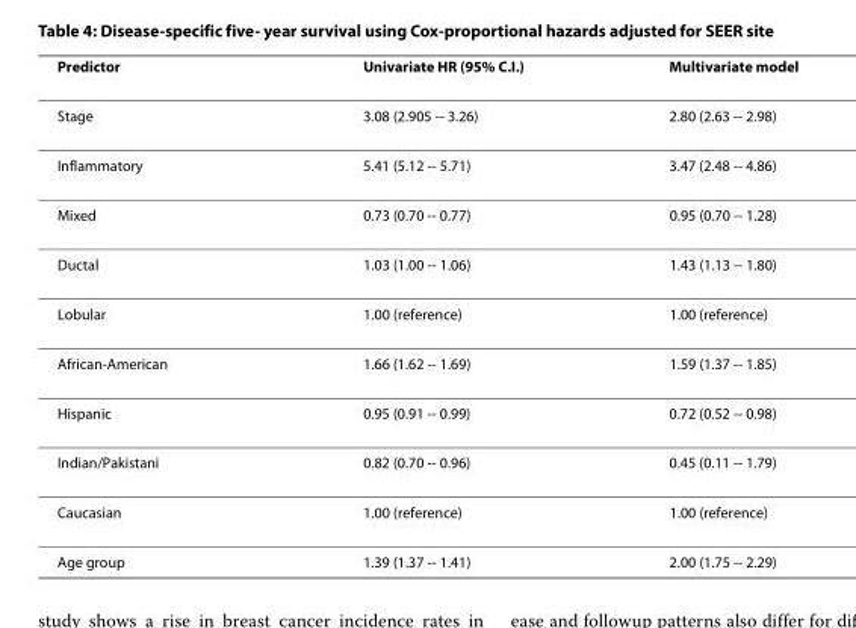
<table><thead><tr><td>Predictor</td><td>Univariate HR (95% C.I.)</td><td>Multivariate model</td></tr></thead><tbody><tr><td>Stage</td><td>3.08 (2.905 -- 3.26)</td><td>2.80 (2.63 -- 2.98)</td></tr><tr><td>Inflammatory</td><td>5.41 (5.12 -- 5.71)</td><td>3.47 (2.48 -- 4.86)</td></tr><tr><td>Mixed</td><td>0.73 (0.70 -- 0.77)</td><td>0.95 (0.70 -- 1.28)</td></tr><tr><td>Ductal</td><td>1.03 (1.00 -- 1.06)</td><td>1.43 (1.13 -- 1.80)</td></tr><tr><td>Lobular</td><td>1.00 (reference)</td><td>1.00 (reference)</td></tr><tr><td>African-American</td><td>1.66 (1.62 -- 1.69)</td><td>1.59 (1.37 -- 1.85)</td></tr><tr><td>Hispanic</td><td>0.95 (0.91 -- 0.99)</td><td>0.72 (0.52 -- 0.98)</td></tr><tr><td>Indian/Pakistani</td><td>0.82 (0.70 -- 0.96)</td><td>0.45 (0.11 -- 1.79)</td></tr><tr><td>Caucasian</td><td>1.00 (reference)</td><td>1.00 (reference)</td></tr><tr><td>Age group</td><td>1.39 (1.37 -- 1.41)</td><td>2.00 (1.75 -- 2.29)</td></tr></tbody></table>